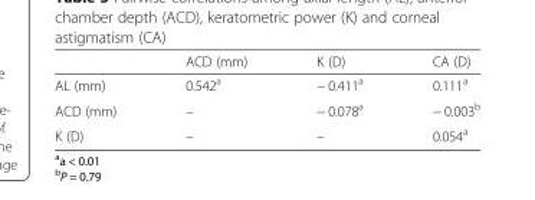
<table><thead><tr><td></td><td>ACD (mm)</td><td>K (D)</td><td>CA (D)</td></tr></thead><tbody><tr><td>AL (mm)</td><td>0.542<sup>a</sup></td><td>− 0.411<sup>a</sup></td><td>0.111<sup>a</sup></td></tr><tr><td>ACD (mm)</td><td>–</td><td>− 0.078<sup>a</sup></td><td>− 0.003<sup>b</sup></td></tr><tr><td>K (D)</td><td>–</td><td>–</td><td>0.054<sup>a</sup></td></tr></tbody></table>